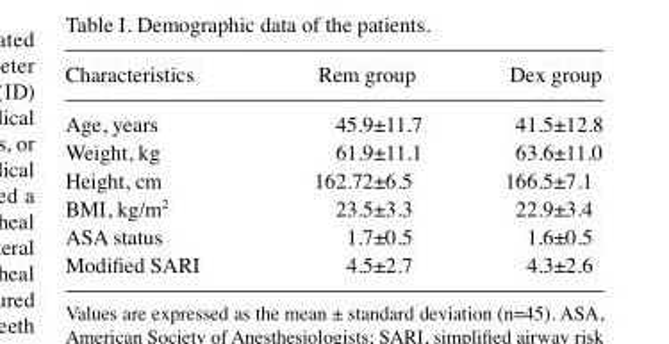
<table><thead><tr><td>Characteristics</td><td>Rem group</td><td>Dex group</td></tr></thead><tbody><tr><td>Age, years</td><td>45.9±11.7</td><td>41.5±12.8</td></tr><tr><td>Weight, kg</td><td>61.9±11.1</td><td>63.6±11.0</td></tr><tr><td>Height, cm</td><td>162.72±6.5</td><td>166.5±7.1</td></tr><tr><td>BMI, kg/m<sup>2</sup></td><td>23.5±3.3</td><td>22.9±3.4</td></tr><tr><td>ASA status</td><td>1.7±0.5</td><td>1.6±0.5</td></tr><tr><td>Modified SARI</td><td>4.5±2.7</td><td>4.3±2.6</td></tr></tbody></table>